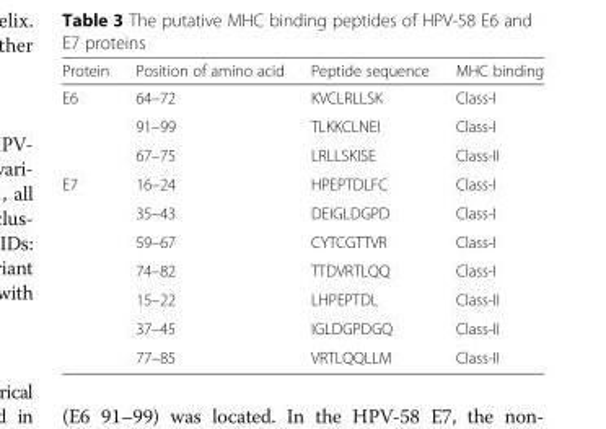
<table><thead><tr><td>Protein</td><td>Position of amino acid</td><td>Peptide sequence</td><td>MHC binding</td></tr></thead><tbody><tr><td rowspan="3">E6</td><td>64–72</td><td>KVCLRLLSK</td><td>Class-I</td></tr><tr><td>91–99</td><td>TLKKCLNEI</td><td>Class-I</td></tr><tr><td>67–75</td><td>LRLLSKISE</td><td>Class-II</td></tr><tr><td rowspan="7">E7</td><td>16–24</td><td>HPEPTDLFC</td><td>Class-I</td></tr><tr><td>35–43</td><td>DEIGLDGPD</td><td>Class-I</td></tr><tr><td>59–67</td><td>CYTCGTTVR</td><td>Class-I</td></tr><tr><td>74–82</td><td>TTDVRTLQQ</td><td>Class-I</td></tr><tr><td>15–22</td><td>LHPEPTDL</td><td>Class-II</td></tr><tr><td>37–45</td><td>IGLDGPDGQ</td><td>Class-II</td></tr><tr><td>77–85</td><td>VRTLQQLLM</td><td>Class-II</td></tr></tbody></table>